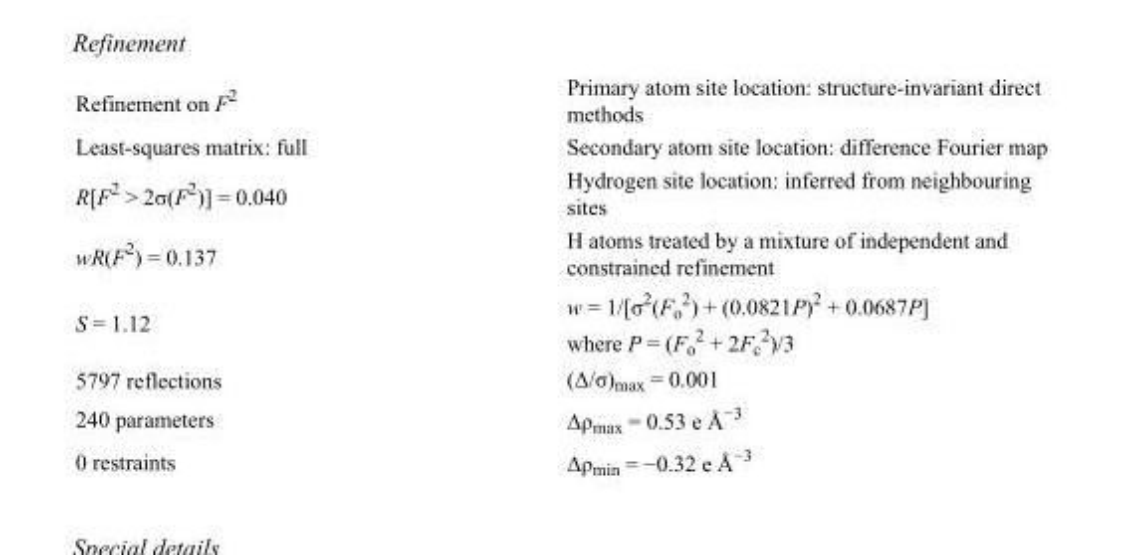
<table><tbody><tr><td>Refinement on F<sup>2</sup></td><td>Primary atom site location: structure-invariant direct methods</td></tr><tr><td>Least-squares matrix: full</td><td>Secondary atom site location: difference Fourier map</td></tr><tr><td>R[F<sup>2</sup> &gt; 2σ(F<sup>2</sup>)] = 0.040</td><td>Hydrogen site location: inferred from neighbouring sites</td></tr><tr><td>wR(F<sup>2</sup>) = 0.137</td><td>H atoms treated by a mixture of independent and constrained refinement</td></tr><tr><td>S = 1.12</td><td>w = 1/[σ<sup>2</sup>(F<sub>o</sub> <sup>2</sup>) + (0.0821P)<sup>2</sup> + 0.0687P] where P = (F<sub>o</sub> <sup>2</sup> + 2F<sub>c</sub> <sup>2</sup>)/3</td></tr><tr><td>5797 reflections</td><td>(Δ/σ)<sub>max</sub> = 0.001</td></tr><tr><td>240 parameters</td><td>Δρ<sub>max</sub> = 0.53 e Å<sup>−3</sup></td></tr><tr><td>0 restraints</td><td>Δρ<sub>min</sub> = −0.32 e Å<sup>−3</sup></td></tr></tbody></table>